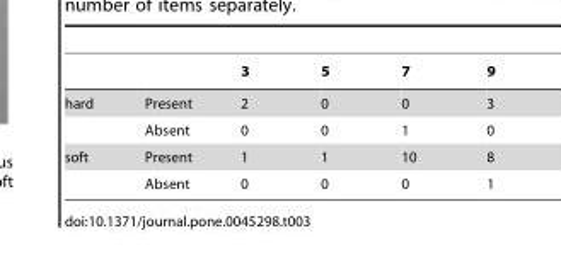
<table><thead><tr><td></td><td></td><td>3</td><td>5</td><td>7</td><td>9</td></tr></thead><tbody><tr><td rowspan="2">hard</td><td>Present</td><td>2</td><td>0</td><td>0</td><td>3</td></tr><tr><td>Absent</td><td>0</td><td>0</td><td>1</td><td>0</td></tr><tr><td rowspan="2">soft</td><td>Present</td><td>1</td><td>1</td><td>10</td><td>8</td></tr><tr><td>Absent</td><td>0</td><td>0</td><td>0</td><td>1</td></tr></tbody></table>